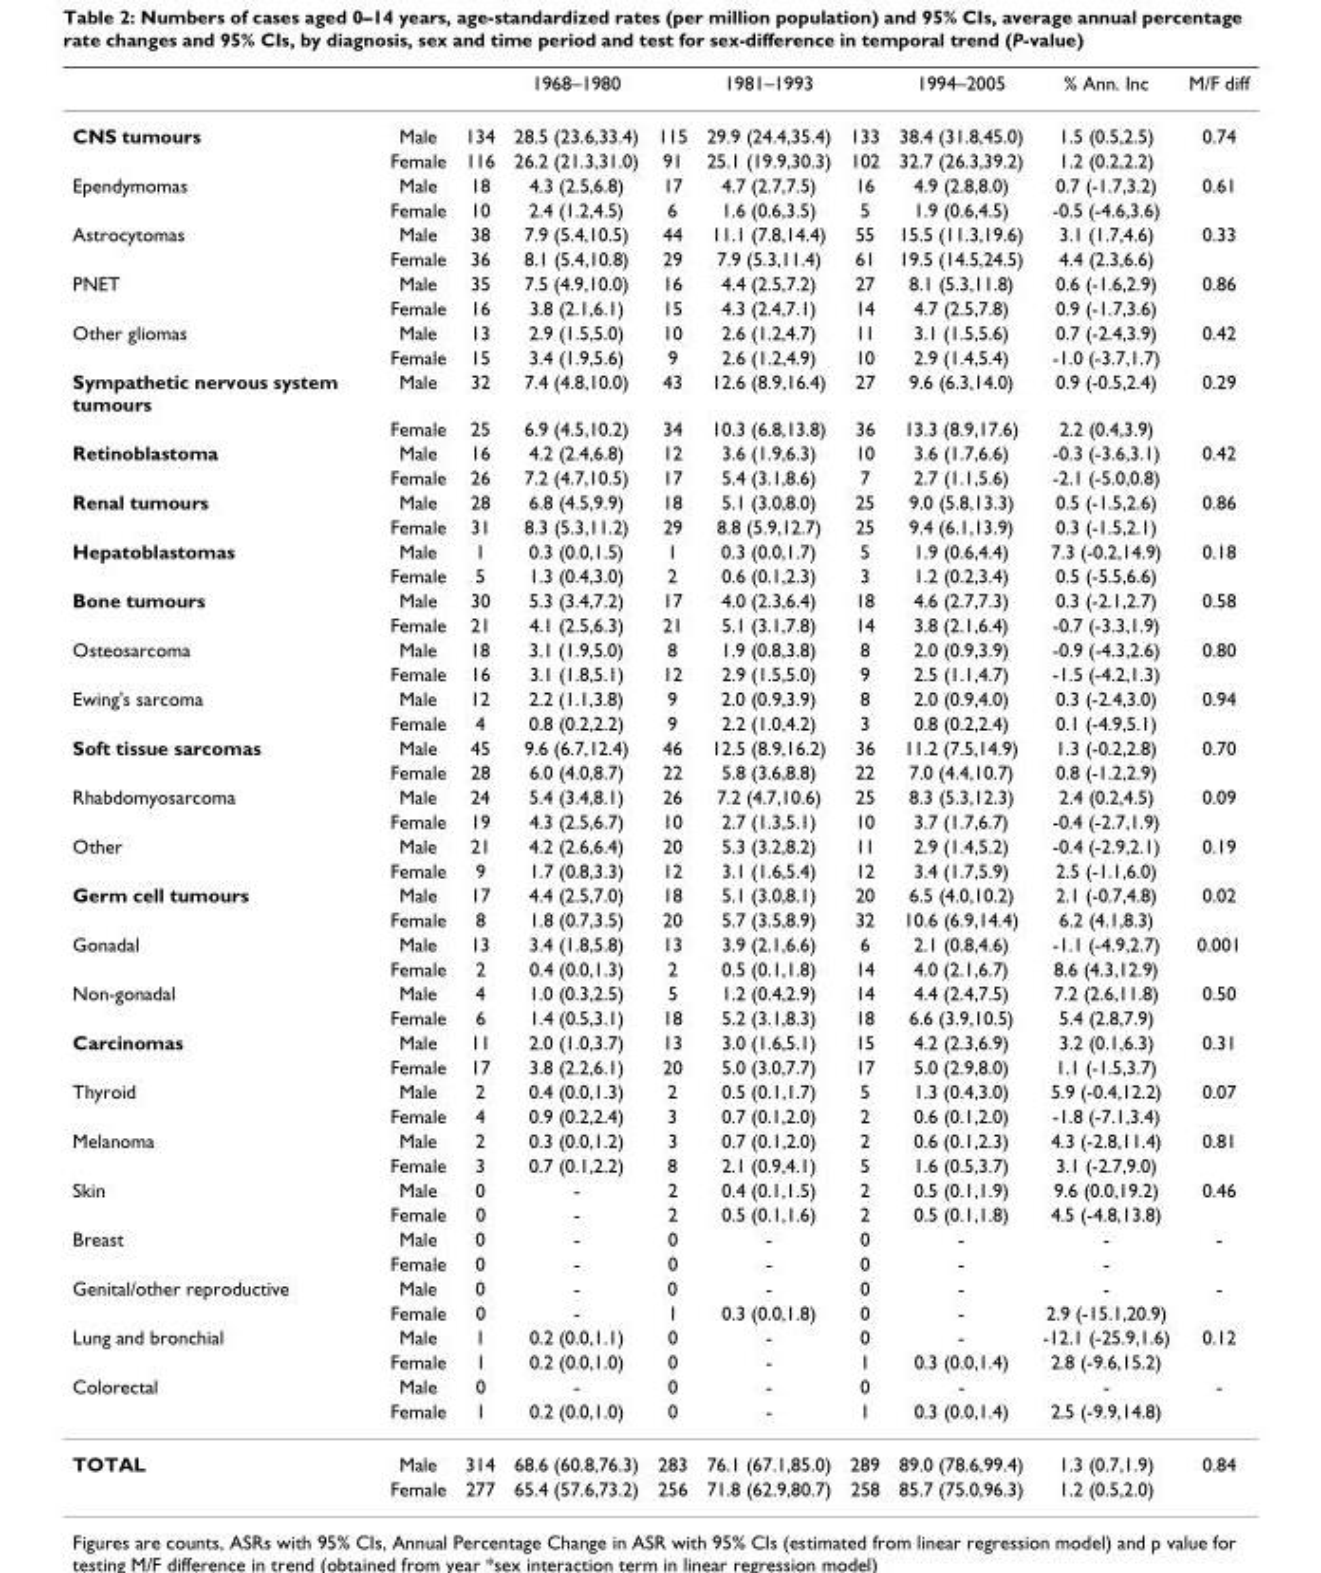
<table><thead><tr><td></td><td></td><td></td><td>1968–1980</td><td></td><td>1981–1993</td><td></td><td>1994–2005</td><td>% Ann. Inc</td><td>M/F diff</td></tr></thead><tbody><tr><td rowspan="2">CNS tumours</td><td>Male</td><td>134</td><td>28.5 (23.6,33.4)</td><td>115</td><td>29.9 (24.4,35.4)</td><td>133</td><td>38.4 (31.8,45.0)</td><td>1.5 (0.5,2.5)</td><td>0.74</td></tr><tr><td>Female</td><td>116</td><td>26.2 (21.3,31.0)</td><td>91</td><td>25.1 (19.9,30.3)</td><td>102</td><td>32.7 (26.3,39.2)</td><td>1.2 (0.2,2.2)</td><td></td></tr><tr><td rowspan="2">Ependymomas</td><td>Male</td><td>18</td><td>4.3 (2.5,6.8)</td><td>17</td><td>4.7 (2.7,7.5)</td><td>16</td><td>4.9 (2.8,8.0)</td><td>0.7 (-1.7,3.2)</td><td>0.61</td></tr><tr><td>Female</td><td>10</td><td>2.4 (1.2,4.5)</td><td>6</td><td>1.6 (0.6,3.5)</td><td>5</td><td>1.9 (0.6,4.5)</td><td>-0.5 (-4.6,3.6)</td><td></td></tr><tr><td rowspan="2">Astrocytomas</td><td>Male</td><td>38</td><td>7.9 (5.4,10.5)</td><td>44</td><td>11.1 (7.8,14.4)</td><td>55</td><td>15.5 (11.3,19.6)</td><td>3.1 (1.7,4.6)</td><td>0.33</td></tr><tr><td>Female</td><td>36</td><td>8.1 (5.4,10.8)</td><td>29</td><td>7.9 (5.3,11.4)</td><td>61</td><td>19.5 (14.5,24.5)</td><td>4.4 (2.3,6.6)</td><td></td></tr><tr><td rowspan="2">PNET</td><td>Male</td><td>35</td><td>7.5 (4.9,10.0)</td><td>16</td><td>4.4 (2.5,7.2)</td><td>27</td><td>8.1 (5.3,11.8)</td><td>0.6 (-1.6,2.9)</td><td>0.86</td></tr><tr><td>Female</td><td>16</td><td>3.8 (2.1,6.1)</td><td>15</td><td>4.3 (2.4,7.1)</td><td>14</td><td>4.7 (2.5,7.8)</td><td>0.9 (-1.7,3.6)</td><td></td></tr><tr><td rowspan="2">Other gliomas</td><td>Male</td><td>13</td><td>2.9 (1.5,5.0)</td><td>10</td><td>2.6 (1.2,4.7)</td><td>11</td><td>3.1 (1.5,5.6)</td><td>0.7 (-2.4,3.9)</td><td>0.42</td></tr><tr><td>Female</td><td>15</td><td>3.4 (1.9,5.6)</td><td>9</td><td>2.6 (1.2,4.9)</td><td>10</td><td>2.9 (1.4,5.4)</td><td>-1.0 (-3.7,1.7)</td><td></td></tr><tr><td rowspan="2">Sympathetic nervous system tumours</td><td>Male</td><td>32</td><td>7.4 (4.8,10.0)</td><td>43</td><td>12.6 (8.9,16.4)</td><td>27</td><td>9.6 (6.3,14.0)</td><td>0.9 (-0.5,2.4)</td><td>0.29</td></tr><tr><td>Female</td><td>25</td><td>6.9 (4.5,10.2)</td><td>34</td><td>10.3 (6.8,13.8)</td><td>36</td><td>13.3 (8.9,17.6)</td><td>2.2 (0.4,3.9)</td><td></td></tr><tr><td rowspan="2">Retinoblastoma</td><td>Male</td><td>16</td><td>4.2 (2.4,6.8)</td><td>12</td><td>3.6 (1.9,6.3)</td><td>10</td><td>3.6 (1.7,6.6)</td><td>-0.3 (-3.6,3.1)</td><td>0.42</td></tr><tr><td>Female</td><td>26</td><td>7.2 (4.7,10.5)</td><td>17</td><td>5.4 (3.1,8.6)</td><td>7</td><td>2.7 (1.1,5.6)</td><td>-2.1 (-5.0,0.8)</td><td></td></tr><tr><td rowspan="2">Renal tumours</td><td>Male</td><td>28</td><td>6.8 (4.5,9.9)</td><td>18</td><td>5.1 (3.0,8.0)</td><td>25</td><td>9.0 (5.8,13.3)</td><td>0.5 (-1.5,2.6)</td><td>0.86</td></tr><tr><td>Female</td><td>31</td><td>8.3 (5.3,11.2)</td><td>29</td><td>8.8 (5.9,12.7)</td><td>25</td><td>9.4 (6.1,13.9)</td><td>0.3 (-1.5,2.1)</td><td></td></tr><tr><td rowspan="2">Hepatoblastomas</td><td>Male</td><td>1</td><td>0.3 (0.0,1.5)</td><td>1</td><td>0.3 (0.0,1.7)</td><td>5</td><td>1.9 (0.6,4.4)</td><td>7.3 (-0.2,14.9)</td><td>0.18</td></tr><tr><td>Female</td><td>5</td><td>1.3 (0.4,3.0)</td><td>2</td><td>0.6 (0.1,2.3)</td><td>3</td><td>1.2 (0.2,3.4)</td><td>0.5 (-5.5,6.6)</td><td></td></tr><tr><td rowspan="2">Bone tumours</td><td>Male</td><td>30</td><td>5.3 (3.4,7.2)</td><td>17</td><td>4.0 (2.3,6.4)</td><td>18</td><td>4.6 (2.7,7.3)</td><td>0.3 (-2.1,2.7)</td><td>0.58</td></tr><tr><td>Female</td><td>21</td><td>4.1 (2.5,6.3)</td><td>21</td><td>5.1 (3.1,7.8)</td><td>14</td><td>3.8 (2.1,6.4)</td><td>-0.7 (-3.3,1.9)</td><td></td></tr><tr><td rowspan="2">Osteosarcoma</td><td>Male</td><td>18</td><td>3.1 (1.9,5.0)</td><td>8</td><td>1.9 (0.8,3.8)</td><td>8</td><td>2.0 (0.9,3.9)</td><td>-0.9 (-4.3,2.6)</td><td>0.80</td></tr><tr><td>Female</td><td>16</td><td>3.1 (1.8,5.1)</td><td>12</td><td>2.9 (1.5,5.0)</td><td>9</td><td>2.5 (1.1,4.7)</td><td>-1.5 (-4.2,1.3)</td><td></td></tr><tr><td rowspan="2">Ewing&#x27;s sarcoma</td><td>Male</td><td>12</td><td>2.2 (1.1,3.8)</td><td>9</td><td>2.0 (0.9,3.9)</td><td>8</td><td>2.0 (0.9,4.0)</td><td>0.3 (-2.4,3.0)</td><td>0.94</td></tr><tr><td>Female</td><td>4</td><td>0.8 (0.2,2.2)</td><td>9</td><td>2.2 (1.0,4.2)</td><td>3</td><td>0.8 (0.2,2.4)</td><td>0.1 (-4.9,5.1)</td><td></td></tr><tr><td rowspan="2">Soft tissue sarcomas</td><td>Male</td><td>45</td><td>9.6 (6.7,12.4)</td><td>46</td><td>12.5 (8.9,16.2)</td><td>36</td><td>11.2 (7.5,14.9)</td><td>1.3 (-0.2,2.8)</td><td>0.70</td></tr><tr><td>Female</td><td>28</td><td>6.0 (4.0,8.7)</td><td>22</td><td>5.8 (3.6,8.8)</td><td>22</td><td>7.0 (4.4,10.7)</td><td>0.8 (-1.2,2.9)</td><td></td></tr><tr><td rowspan="2">Rhabdomyosarcoma</td><td>Male</td><td>24</td><td>5.4 (3.4,8.1)</td><td>26</td><td>7.2 (4.7,10.6)</td><td>25</td><td>8.3 (5.3,12.3)</td><td>2.4 (0.2,4.5)</td><td>0.09</td></tr><tr><td>Female</td><td>19</td><td>4.3 (2.5,6.7)</td><td>10</td><td>2.7 (1.3,5.1)</td><td>10</td><td>3.7 (1.7,6.7)</td><td>-0.4 (-2.7,1.9)</td><td></td></tr><tr><td rowspan="2">Other</td><td>Male</td><td>21</td><td>4.2 (2.6,6.4)</td><td>20</td><td>5.3 (3.2,8.2)</td><td>11</td><td>2.9 (1.4,5.2)</td><td>-0.4 (-2.9,2.1)</td><td>0.19</td></tr><tr><td>Female</td><td>9</td><td>1.7 (0.8,3.3)</td><td>12</td><td>3.1 (1.6,5.4)</td><td>12</td><td>3.4 (1.7,5.9)</td><td>2.5 (-1.1,6.0)</td><td></td></tr><tr><td rowspan="2">Germ cell tumours</td><td>Male</td><td>17</td><td>4.4 (2.5,7.0)</td><td>18</td><td>5.1 (3.0,8.1)</td><td>20</td><td>6.5 (4.0,10.2)</td><td>2.1 (-0.7,4.8)</td><td>0.02</td></tr><tr><td>Female</td><td>8</td><td>1.8 (0.7,3.5)</td><td>20</td><td>5.7 (3.5,8.9)</td><td>32</td><td>10.6 (6.9,14.4)</td><td>6.2 (4.1,8.3)</td><td></td></tr><tr><td rowspan="2">Gonadal</td><td>Male</td><td>13</td><td>3.4 (1.8,5.8)</td><td>13</td><td>3.9 (2.1,6.6)</td><td>6</td><td>2.1 (0.8,4.6)</td><td>-1.1 (-4.9,2.7)</td><td>0.001</td></tr><tr><td>Female</td><td>2</td><td>0.4 (0.0,1.3)</td><td>2</td><td>0.5 (0.1,1.8)</td><td>14</td><td>4.0 (2.1,6.7)</td><td>8.6 (4.3,12.9)</td><td></td></tr><tr><td rowspan="2">Non-gonadal</td><td>Male</td><td>4</td><td>1.0 (0.3,2.5)</td><td>5</td><td>1.2 (0.4,2.9)</td><td>14</td><td>4.4 (2.4,7.5)</td><td>7.2 (2.6,11.8)</td><td>0.50</td></tr><tr><td>Female</td><td>6</td><td>1.4 (0.5,3.1)</td><td>18</td><td>5.2 (3.1,8.3)</td><td>18</td><td>6.6 (3.9,10.5)</td><td>5.4 (2.8,7.9)</td><td></td></tr><tr><td rowspan="2">Carcinomas</td><td>Male</td><td>11</td><td>2.0 (1.0,3.7)</td><td>13</td><td>3.0 (1.6,5.1)</td><td>15</td><td>4.2 (2.3,6.9)</td><td>3.2 (0.1,6.3)</td><td>0.31</td></tr><tr><td>Female</td><td>17</td><td>3.8 (2.2,6.1)</td><td>20</td><td>5.0 (3.0,7.7)</td><td>17</td><td>5.0 (2.9,8.0)</td><td>1.1 (-1.5,3.7)</td><td></td></tr><tr><td rowspan="2">Thyroid</td><td>Male</td><td>2</td><td>0.4 (0.0,1.3)</td><td>2</td><td>0.5 (0.1,1.7)</td><td>5</td><td>1.3 (0.4,3.0)</td><td>5.9 (-0.4,12.2)</td><td>0.07</td></tr><tr><td>Female</td><td>4</td><td>0.9 (0.2,2.4)</td><td>3</td><td>0.7 (0.1,2.0)</td><td>2</td><td>0.6 (0.1,2.0)</td><td>-1.8 (-7.1,3.4)</td><td></td></tr><tr><td rowspan="2">Melanoma</td><td>Male</td><td>2</td><td>0.3 (0.0,1.2)</td><td>3</td><td>0.7 (0.1,2.0)</td><td>2</td><td>0.6 (0.1,2.3)</td><td>4.3 (-2.8,11.4)</td><td>0.81</td></tr><tr><td>Female</td><td>3</td><td>0.7 (0.1,2.2)</td><td>8</td><td>2.1 (0.9,4.1)</td><td>5</td><td>1.6 (0.5,3.7)</td><td>3.1 (-2.7,9.0)</td><td></td></tr><tr><td rowspan="2">Skin</td><td>Male</td><td>0</td><td>-</td><td>2</td><td>0.4 (0.1,1.5)</td><td>2</td><td>0.5 (0.1,1.9)</td><td>9.6 (0.0,19.2)</td><td>0.46</td></tr><tr><td>Female</td><td>0</td><td>-</td><td>2</td><td>0.5 (0.1,1.6)</td><td>2</td><td>0.5 (0.1,1.8)</td><td>4.5 (-4.8,13.8)</td><td></td></tr><tr><td rowspan="2">Breast</td><td>Male</td><td>0</td><td>-</td><td>0</td><td>-</td><td>0</td><td>-</td><td>-</td><td>-</td></tr><tr><td>Female</td><td>0</td><td>-</td><td>0</td><td>-</td><td>0</td><td>-</td><td>-</td><td></td></tr><tr><td rowspan="2">Genital/other reproductive</td><td>Male</td><td>0</td><td>-</td><td>0</td><td>-</td><td>0</td><td>-</td><td>-</td><td>-</td></tr><tr><td>Female</td><td>0</td><td>-</td><td>1</td><td>0.3 (0.0,1.8)</td><td>0</td><td>-</td><td>2.9 (-15.1,20.9)</td><td></td></tr><tr><td rowspan="2">Lung and bronchial</td><td>Male</td><td>1</td><td>0.2 (0.0,1.1)</td><td>0</td><td>-</td><td>0</td><td>-</td><td>-12.1 (-25.9,1.6)</td><td>0.12</td></tr><tr><td>Female</td><td>1</td><td>0.2 (0.0,1.0)</td><td>0</td><td>-</td><td>1</td><td>0.3 (0.0,1.4)</td><td>2.8 (-9.6,15.2)</td><td></td></tr><tr><td rowspan="2">Colorectal</td><td>Male</td><td>0</td><td>-</td><td>0</td><td>-</td><td>0</td><td>-</td><td>-</td><td>-</td></tr><tr><td>Female</td><td>1</td><td>0.2 (0.0,1.0)</td><td>0</td><td>-</td><td>1</td><td>0.3 (0.0,1.4)</td><td>2.5 (-9.9,14.8)</td><td></td></tr><tr><td rowspan="2">TOTAL</td><td>Male</td><td>314</td><td>68.6 (60.8,76.3)</td><td>283</td><td>76.1 (67.1,85.0)</td><td>289</td><td>89.0 (78.6,99.4)</td><td>1.3 (0.7,1.9)</td><td>0.84</td></tr><tr><td>Female</td><td>277</td><td>65.4 (57.6,73.2)</td><td>256</td><td>71.8 (62.9,80.7)</td><td>258</td><td>85.7 (75.0,96.3)</td><td>1.2 (0.5,2.0)</td><td></td></tr></tbody></table>